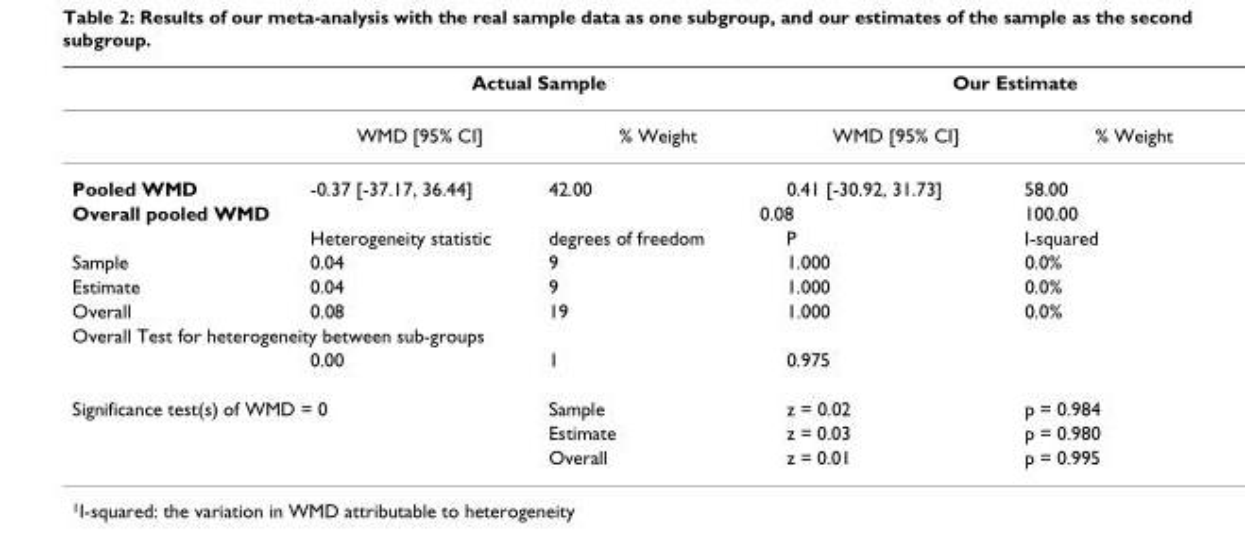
<table><thead><tr><td rowspan="2"></td><td colspan="2">Actual Sample</td><td colspan="2">Our Estimate</td></tr><tr><td>WMD [95% CI]</td><td>% Weight</td><td>WMD [95% CI]</td><td>% Weight</td></tr></thead><tbody><tr><td>Pooled WMD</td><td>-0.37 [-37.17, 36.44]</td><td>42.00</td><td>0.41 [-30.92, 31.73]</td><td>58.00</td></tr><tr><td colspan="2">Overall pooled WMD</td><td colspan="2">0.08</td><td>100.00</td></tr><tr><td></td><td>Heterogeneity statistic</td><td>degrees of freedom</td><td>P</td><td>I-squared</td></tr><tr><td>Sample</td><td>0.04</td><td>9</td><td>1.000</td><td>0.0%</td></tr><tr><td>Estimate</td><td>0.04</td><td>9</td><td>1.000</td><td>0.0%</td></tr><tr><td>Overall</td><td>0.08</td><td>19</td><td>1.000</td><td>0.0%</td></tr><tr><td colspan="5">Overall Test for heterogeneity between sub-groups</td></tr><tr><td></td><td>0.00</td><td>1</td><td>0.975</td><td></td></tr><tr><td colspan="2">Significance test(s) of WMD = 0</td><td>Sample</td><td>z = 0.02</td><td>p = 0.984</td></tr><tr><td></td><td></td><td>Estimate</td><td>z = 0.03</td><td>p = 0.980</td></tr><tr><td></td><td></td><td>Overall</td><td>z = 0.01</td><td>p = 0.995</td></tr></tbody></table>